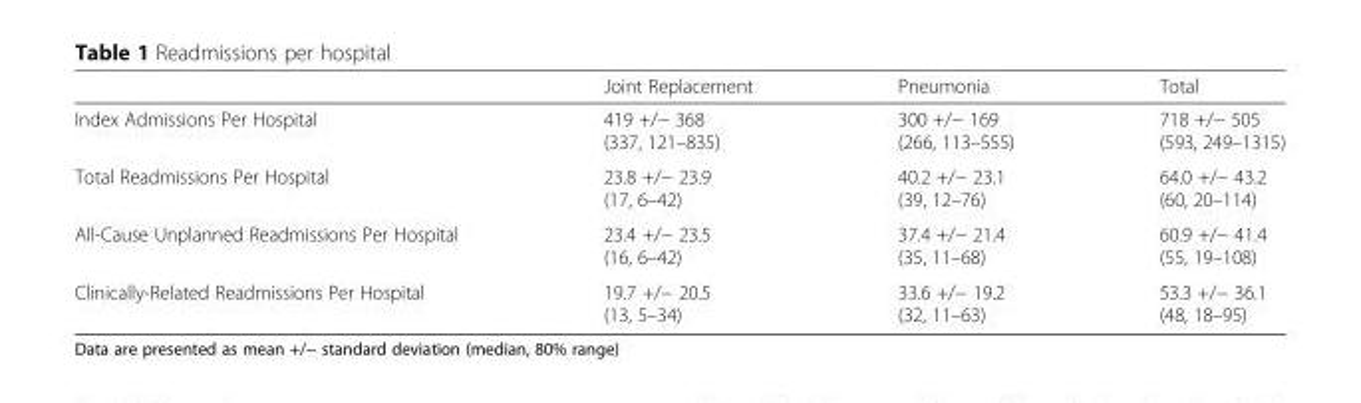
<table><thead><tr><td></td><td>Joint Replacement</td><td>Pneumonia</td><td>Total</td></tr></thead><tbody><tr><td>Index Admissions Per Hospital</td><td>419 +/− 368 (337, 121–835)</td><td>300 +/− 169 (266, 113–555)</td><td>718 +/− 505 (593, 249–1315)</td></tr><tr><td>Total Readmissions Per Hospital</td><td>23.8 +/− 23.9 (17, 6–42)</td><td>40.2 +/− 23.1 (39, 12–76)</td><td>64.0 +/− 43.2 (60, 20–114)</td></tr><tr><td>All-Cause Unplanned Readmissions Per Hospital</td><td>23.4 +/− 23.5 (16, 6–42)</td><td>37.4 +/− 21.4 (35, 11–68)</td><td>60.9 +/− 41.4 (55, 19–108)</td></tr><tr><td>Clinically-Related Readmissions Per Hospital</td><td>19.7 +/− 20.5 (13, 5–34)</td><td>33.6 +/− 19.2 (32, 11–63)</td><td>53.3 +/− 36.1 (48, 18–95)</td></tr></tbody></table>